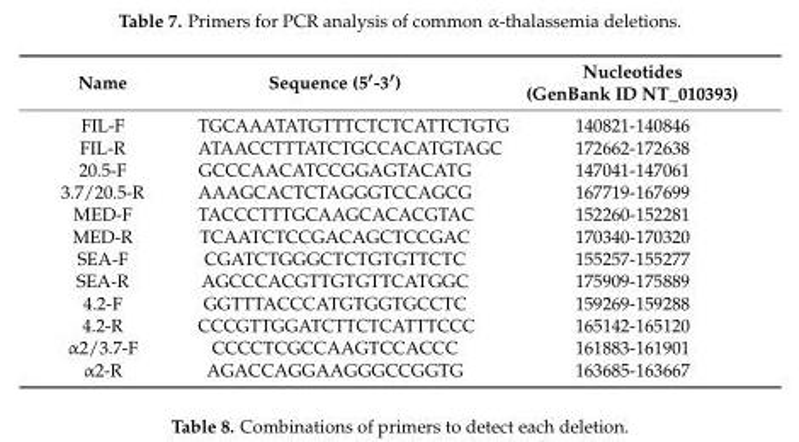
<table><thead><tr><td>Name</td><td>Sequence (5′-3′)</td><td>Nucleotides (GenBank ID NT_010393)</td></tr></thead><tbody><tr><td>FIL-F</td><td>TGCAAATATGTTTCTCTCATTCTGTG</td><td>140821-140846</td></tr><tr><td>FIL-R</td><td>ATAACCTTTATCTGCCACATGTAGC</td><td>172662-172638</td></tr><tr><td>20.5-F</td><td>GCCCAACATCCGGAGTACATG</td><td>147041-147061</td></tr><tr><td>3.7/20.5-R</td><td>AAAGCACTCTAGGGTCCAGCG</td><td>167719-167699</td></tr><tr><td>MED-F</td><td>TACCCTTTGCAAGCACACGTAC</td><td>152260-152281</td></tr><tr><td>MED-R</td><td>TCAATCTCCGACAGCTCCGAC</td><td>170340-170320</td></tr><tr><td>SEA-F</td><td>CGATCTGGGCTCTGTGTTCTC</td><td>155257-155277</td></tr><tr><td>SEA-R</td><td>AGCCCACGTTGTGTTCATGGC</td><td>175909-175889</td></tr><tr><td>4.2-F</td><td>GGTTTACCCATGTGGTGCCTC</td><td>159269-159288</td></tr><tr><td>4.2-R</td><td>CCCGTTGGATCTTCTCATTTCCC</td><td>165142-165120</td></tr><tr><td>α2/3.7-F</td><td>CCCCTCGCCAAGTCCACCC</td><td>161883-161901</td></tr><tr><td>α2-R</td><td>AGACCAGGAAGGGCCGGTG</td><td>163685-163667</td></tr></tbody></table>